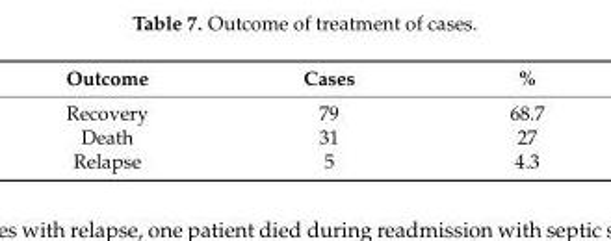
<table><thead><tr><td>Outcome</td><td>Cases</td><td>%</td></tr></thead><tbody><tr><td>Recovery</td><td>79</td><td>68.7</td></tr><tr><td>Death</td><td>31</td><td>27</td></tr><tr><td>Relapse</td><td>5</td><td>4.3</td></tr></tbody></table>